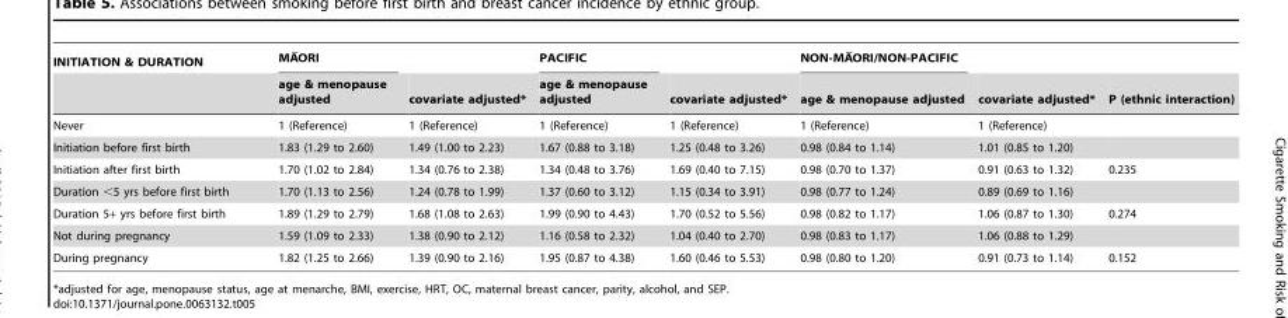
<table><thead><tr><td rowspan="2">INITIATION &amp; DURATION</td><td rowspan="2">MA ORI age &amp; menopause adjusted</td><td rowspan="2">covariate adjusted*</td><td rowspan="2">PACIFIC age &amp; menopause adjusted</td><td rowspan="2">covariate adjusted*</td><td rowspan="2">NON-MA ORI/NON-PACIFIC age &amp; menopause adjusted</td><td rowspan="2">covariate adjusted*</td><td rowspan="2">P (ethnic interaction)</td></tr><tr></tr></thead><tbody><tr><td>Never</td><td>1 (Reference)</td><td>1 (Reference)</td><td>1 (Reference)</td><td>1 (Reference)</td><td>1 (Reference)</td><td>1 (Reference)</td><td></td></tr><tr><td>Initiation before first birth</td><td>1.83 (1.29 to 2.60)</td><td>1.49 (1.00 to 2.23)</td><td>1.67 (0.88 to 3.18)</td><td>1.25 (0.48 to 3.26)</td><td>0.98 (0.84 to 1.14)</td><td>1.01 (0.85 to 1.20)</td><td></td></tr><tr><td>Initiation after first birth</td><td>1.70 (1.02 to 2.84)</td><td>1.34 (0.76 to 2.38)</td><td>1.34 (0.48 to 3.76)</td><td>1.69 (0.40 to 7.15)</td><td>0.98 (0.70 to 1.37)</td><td>0.91 (0.63 to 1.32)</td><td>0.235</td></tr><tr><td>Duration &lt;5 yrs before first birth</td><td>1.70 (1.13 to 2.56)</td><td>1.24 (0.78 to 1.99)</td><td>1.37 (0.60 to 3.12)</td><td>1.15 (0.34 to 3.91)</td><td>0.98 (0.77 to 1.24)</td><td>0.89 (0.69 to 1.16)</td><td></td></tr><tr><td>Duration 5+ yrs before first birth</td><td>1.89 (1.29 to 2.79)</td><td>1.68 (1.08 to 2.63)</td><td>1.99 (0.90 to 4.43)</td><td>1.70 (0.52 to 5.56)</td><td>0.98 (0.82 to 1.17)</td><td>1.06 (0.87 to 1.30)</td><td>0.274</td></tr><tr><td>Not during pregnancy</td><td>1.59 (1.09 to 2.33)</td><td>1.38 (0.90 to 2.12)</td><td>1.16 (0.58 to 2.32)</td><td>1.04 (0.40 to 2.70)</td><td>0.98 (0.83 to 1.17)</td><td>1.06 (0.88 to 1.29)</td><td></td></tr><tr><td>During pregnancy</td><td>1.82 (1.25 to 2.66)</td><td>1.39 (0.90 to 2.16)</td><td>1.95 (0.87 to 4.38)</td><td>1.60 (0.46 to 5.53)</td><td>0.98 (0.80 to 1.20)</td><td>0.91 (0.73 to 1.14)</td><td>0.152</td></tr></tbody></table>